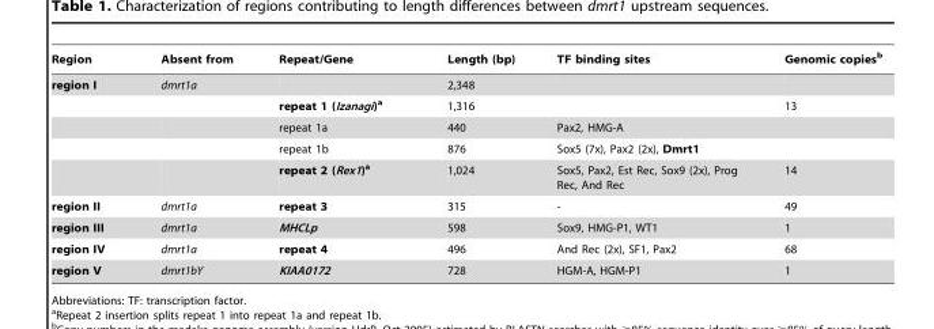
<table><thead><tr><td>Region</td><td>Absent from</td><td>Repeat/Gene</td><td>Length (bp)</td><td>TF binding sites</td><td>Genomic copies<sup>b</sup></td></tr></thead><tbody><tr><td rowspan="5">region I</td><td>dmrt1a</td><td></td><td>2,348</td><td></td><td></td></tr><tr><td></td><td>repeat 1 (Izanagi)a</td><td>1,316</td><td></td><td>13</td></tr><tr><td></td><td>repeat 1a</td><td>440</td><td>Pax2, HMG-A</td><td></td></tr><tr><td></td><td>repeat 1b</td><td>876</td><td>Sox5 (7x), Pax2 (2x), Dmrt1</td><td></td></tr><tr><td></td><td>repeat 2 (Rex1)a</td><td>1,024</td><td>Sox5, Pax2, Est Rec, Sox9 (2x), Prog Rec, And Rec</td><td>14</td></tr><tr><td>region II</td><td>dmrt1a</td><td>repeat 3</td><td>315</td><td>-</td><td>49</td></tr><tr><td>region III</td><td>dmrt1a</td><td>MHCLp</td><td>598</td><td>Sox9, HMG-P1, WT1</td><td>1</td></tr><tr><td>region IV</td><td>dmrt1a</td><td>repeat 4</td><td>496</td><td>And Rec (2x), SF1, Pax2</td><td>68</td></tr><tr><td>region V</td><td>dmrt1bY</td><td>KIAA0172</td><td>728</td><td>HGM-A, HGM-P1</td><td>1</td></tr></tbody></table>